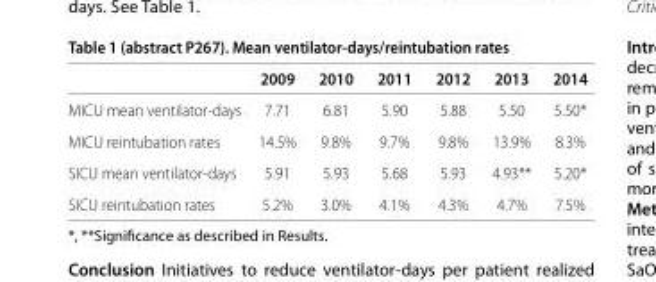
<table><thead><tr><td></td><td>2009</td><td>2010</td><td>2011</td><td>2012</td><td>2013</td><td>2014</td></tr></thead><tbody><tr><td>MICU mean ventilator-days</td><td>7.71</td><td>6.81</td><td>5.90</td><td>5.88</td><td>5.50</td><td>5.50*</td></tr><tr><td>MICU reintubation rates</td><td>14.5%</td><td>9.8%</td><td>9.7%</td><td>9.8%</td><td>13.9%</td><td>8.3%</td></tr><tr><td>SICU mean ventilator-days</td><td>5.91</td><td>5.93</td><td>5.68</td><td>5.93</td><td>4.93**</td><td>5.20*</td></tr><tr><td>SICU reintubation rates</td><td>5.2%</td><td>3.0%</td><td>4.1%</td><td>4.3%</td><td>4.7%</td><td>7.5%</td></tr></tbody></table>